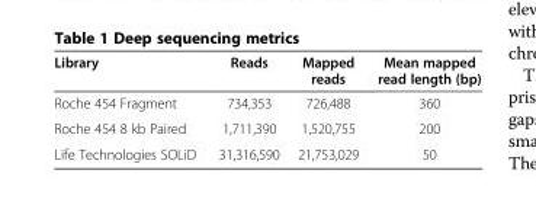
<table><thead><tr><td>Library</td><td>Reads</td><td>Mapped reads</td><td>Mean mapped read length (bp)</td></tr></thead><tbody><tr><td>Roche 454 Fragment</td><td>734,353</td><td>726,488</td><td>360</td></tr><tr><td>Roche 454 8 kb Paired</td><td>1,711,390</td><td>1,520,755</td><td>200</td></tr><tr><td>Life Technologies SOLiD</td><td>31,316,590</td><td>21,753,029</td><td>50</td></tr></tbody></table>